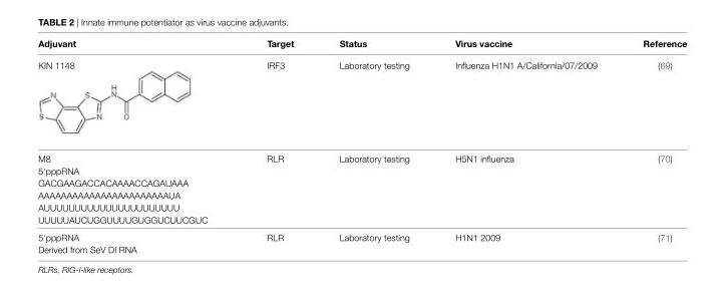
<table><thead><tr><td>Adjuvant</td><td>Target</td><td>Status</td><td>virus vaccine</td><td>Reference</td></tr></thead><tbody><tr><td>KIN 1148</td><td>IRF3</td><td>Laboratory testing</td><td>Influenza H1N1 A/California/07/2009</td><td>(69)</td></tr><tr><td>M8 5′pppRNA GACGAAGACCACAAAACCAGAUAAA AAAAAAAAAAAAAAAAAAAAAAAUA AUUUUUUUUUUUUUUUUUUUUUU UUUUUAUCUGGUUUUGUGGUCUUCGUC</td><td>RLR</td><td>Laboratory testing</td><td>H5N1 influenza</td><td>(70)</td></tr><tr><td>5′pppRNA Derived from SeV DI RNA</td><td>RLR</td><td>Laboratory testing</td><td>H1N1 2009</td><td>(71)</td></tr></tbody></table>